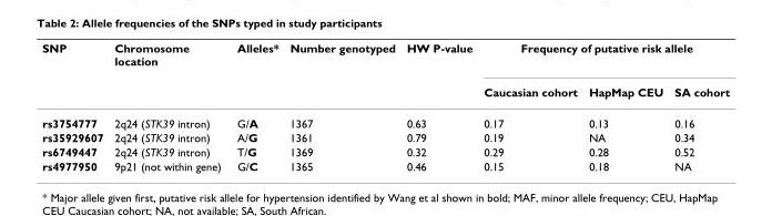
<table><thead><tr><td rowspan="2">SNP</td><td rowspan="2">Chromosome location</td><td rowspan="2">Alleles*</td><td rowspan="2">Number genotyped</td><td rowspan="2">HW P-value</td><td colspan="3">Frequency of putative risk allele</td></tr><tr><td>Caucasian cohort</td><td>HapMap CEU</td><td>SA cohort</td></tr></thead><tbody><tr><td>rs3754777</td><td>2q24 (STK39 intron)</td><td>G/A</td><td>1367</td><td>0.63</td><td>0.17</td><td>0.13</td><td>0.16</td></tr><tr><td>rs35929607</td><td>2q24 (STK39 intron)</td><td>A/G</td><td>1361</td><td>0.79</td><td>0.19</td><td>NA</td><td>0.34</td></tr><tr><td>rs6749447</td><td>2q24 (STK39 intron)</td><td>T/G</td><td>1369</td><td>0.32</td><td>0.29</td><td>0.28</td><td>0.52</td></tr><tr><td>rs4977950</td><td>9p21 (not within gene)</td><td>G/C</td><td>1365</td><td>0.46</td><td>0.15</td><td>0.18</td><td>NA</td></tr></tbody></table>